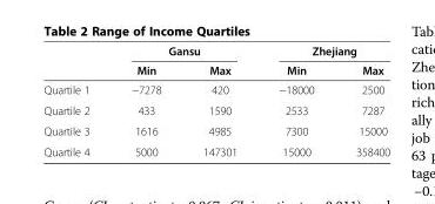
<table><thead><tr><td rowspan="2"></td><td colspan="2">Gansu</td><td colspan="2">Zhejiang</td></tr><tr><td>Min</td><td>Max</td><td>Min</td><td>Max</td></tr></thead><tbody><tr><td>Quartile 1</td><td>−7278</td><td>420</td><td>−18000</td><td>2500</td></tr><tr><td>Quartile 2</td><td>433</td><td>1590</td><td>2533</td><td>7287</td></tr><tr><td>Quartile 3</td><td>1616</td><td>4985</td><td>7300</td><td>15000</td></tr><tr><td>Quartile 4</td><td>5000</td><td>147301</td><td>15000</td><td>358400</td></tr></tbody></table>